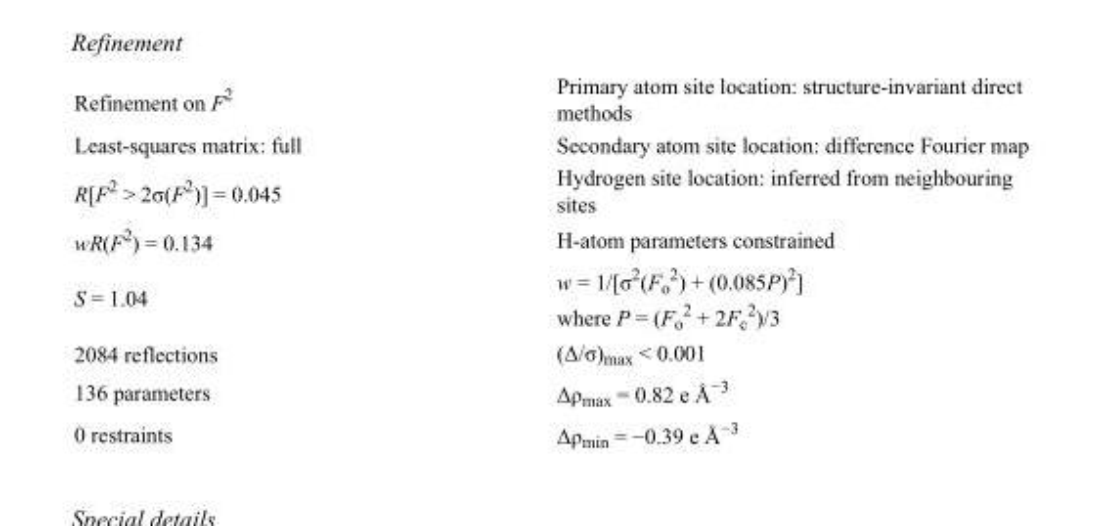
<table><tbody><tr><td>Refinement on F<sup>2</sup></td><td>Primary atom site location: structure-invariant direct methods</td></tr><tr><td>Least-squares matrix: full</td><td>Secondary atom site location: difference Fourier map</td></tr><tr><td>R[F<sup>2</sup> &gt; 2σ(F<sup>2</sup>)] = 0.045</td><td>Hydrogen site location: inferred from neighbouring sites</td></tr><tr><td>wR(F<sup>2</sup>) = 0.134</td><td>H-atom parameters constrained</td></tr><tr><td>S = 1.04</td><td>w = 1/[σ<sup>2</sup>(F<sub>o</sub> <sup>2</sup>) + (0.085P)<sup>2</sup>] where P = (F<sub>o</sub> <sup>2</sup> + 2F<sub>c</sub> <sup>2</sup>)/3</td></tr><tr><td>2084 reflections</td><td>(Δ/σ)<sub>max</sub> &lt; 0.001</td></tr><tr><td>136 parameters</td><td>Δρ<sub>max</sub> = 0.82 e Å<sup>−3</sup></td></tr><tr><td>0 restraints</td><td>Δρ<sub>min</sub> = −0.39 e Å<sup>−3</sup></td></tr></tbody></table>